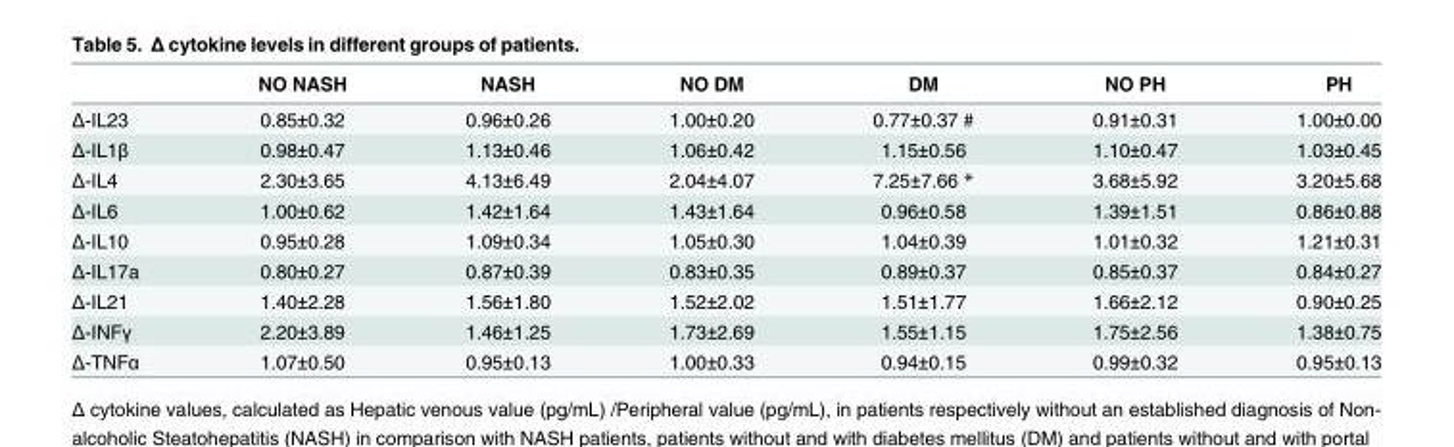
<table><thead><tr><td></td><td>NO NASH</td><td>NASH</td><td>NO DM</td><td>DM</td><td>NO PH</td><td>PH</td></tr></thead><tbody><tr><td>Δ-IL23</td><td>0.85±0.32</td><td>0.96±0.26</td><td>1.00±0.20</td><td>0.77±0.37 #</td><td>0.91±0.31</td><td>1.00±0.00</td></tr><tr><td>Δ-IL1β</td><td>0.98±0.47</td><td>1.13±0.46</td><td>1.06±0.42</td><td>1.15±0.56</td><td>1.10±0.47</td><td>1.03±0.45</td></tr><tr><td>Δ-IL4</td><td>2.30±3.65</td><td>4.13±6.49</td><td>2.04±4.07</td><td>7.25±7.66 *</td><td>3.68±5.92</td><td>3.20±5.68</td></tr><tr><td>Δ-IL6</td><td>1.00±0.62</td><td>1.42±1.64</td><td>1.43±1.64</td><td>0.96±0.58</td><td>1.39±1.51</td><td>0.86±0.88</td></tr><tr><td>Δ-IL10</td><td>0.95±0.28</td><td>1.09±0.34</td><td>1.05±0.30</td><td>1.04±0.39</td><td>1.01±0.32</td><td>1.21±0.31</td></tr><tr><td>Δ-IL17a</td><td>0.80±0.27</td><td>0.87±0.39</td><td>0.83±0.35</td><td>0.89±0.37</td><td>0.85±0.37</td><td>0.84±0.27</td></tr><tr><td>Δ-IL21</td><td>1.40±2.28</td><td>1.56±1.80</td><td>1.52±2.02</td><td>1.51±1.77</td><td>1.66±2.12</td><td>0.90±0.25</td></tr><tr><td>Δ-INFγ</td><td>2.20±3.89</td><td>1.46±1.25</td><td>1.73±2.69</td><td>1.55±1.15</td><td>1.75±2.56</td><td>1.38±0.75</td></tr><tr><td>Δ-TNFα</td><td>1.07±0.50</td><td>0.95±0.13</td><td>1.00±0.33</td><td>0.94±0.15</td><td>0.99±0.32</td><td>0.95±0.13</td></tr></tbody></table>